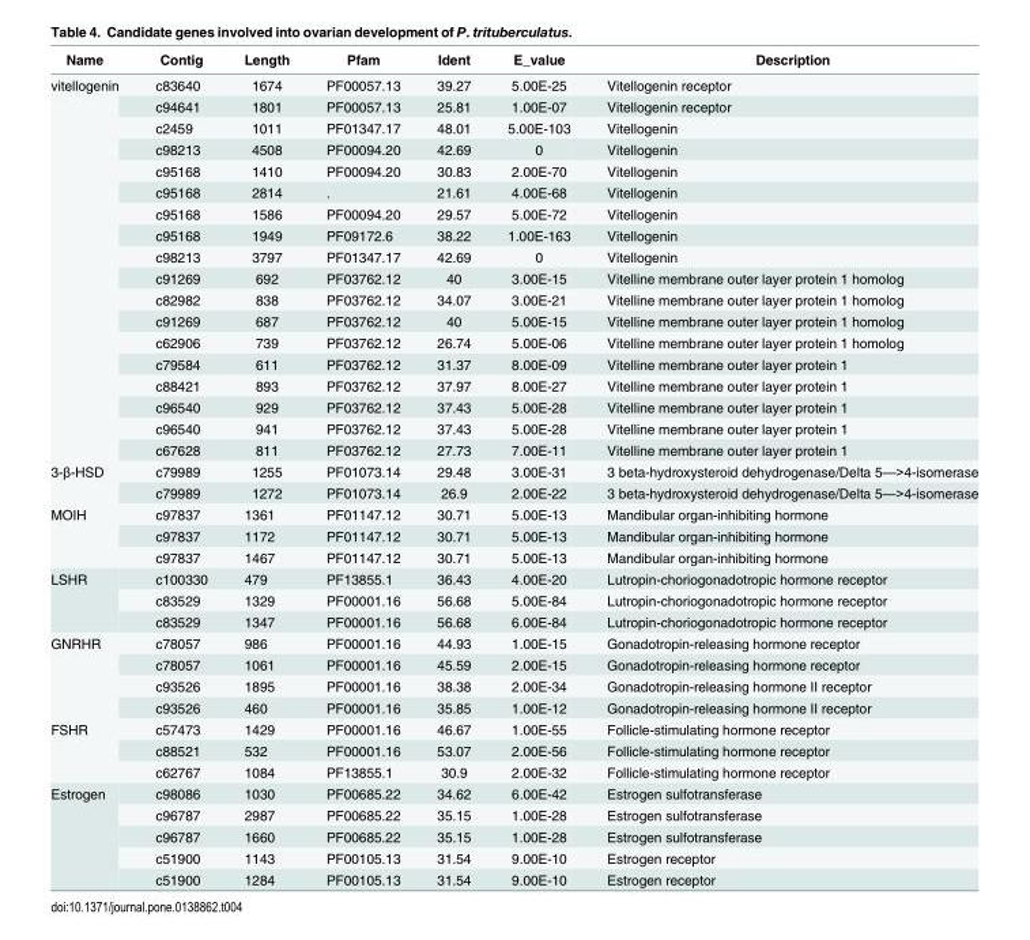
<table><thead><tr><td>Name</td><td>Contig</td><td>Length</td><td>Pfam</td><td>Ident</td><td>E_value</td><td>Description</td></tr></thead><tbody><tr><td rowspan="18">vitellogenin</td><td>c83640</td><td>1674</td><td>PF00057.13</td><td>39.27</td><td>5.00E-25</td><td>Vitellogenin receptor</td></tr><tr><td>c94641</td><td>1801</td><td>PF00057.13</td><td>25.81</td><td>1.00E-07</td><td>Vitellogenin receptor</td></tr><tr><td>c2459</td><td>1011</td><td>PF01347.17</td><td>48.01</td><td>5.00E-103</td><td>Vitellogenin</td></tr><tr><td>c98213</td><td>4508</td><td>PF00094.20</td><td>42.69</td><td>0</td><td>Vitellogenin</td></tr><tr><td>c95168</td><td>1410</td><td>PF00094.20</td><td>30.83</td><td>2.00E-70</td><td>Vitellogenin</td></tr><tr><td>c95168</td><td>2814</td><td>.</td><td>21.61</td><td>4.00E-68</td><td>Vitellogenin</td></tr><tr><td>c95168</td><td>1586</td><td>PF00094.20</td><td>29.57</td><td>5.00E-72</td><td>Vitellogenin</td></tr><tr><td>c95168</td><td>1949</td><td>PF09172.6</td><td>38.22</td><td>1.00E-163</td><td>Vitellogenin</td></tr><tr><td>c98213</td><td>3797</td><td>PF01347.17</td><td>42.69</td><td>0</td><td>Vitellogenin</td></tr><tr><td>c91269</td><td>692</td><td>PF03762.12</td><td>40</td><td>3.00E-15</td><td>Vitelline membrane outer layer protein 1 homolog</td></tr><tr><td>c82982</td><td>838</td><td>PF03762.12</td><td>34.07</td><td>3.00E-21</td><td>Vitelline membrane outer layer protein 1 homolog</td></tr><tr><td>c91269</td><td>687</td><td>PF03762.12</td><td>40</td><td>5.00E-15</td><td>Vitelline membrane outer layer protein 1 homolog</td></tr><tr><td>c62906</td><td>739</td><td>PF03762.12</td><td>26.74</td><td>5.00E-06</td><td>Vitelline membrane outer layer protein 1 homolog</td></tr><tr><td>c79584</td><td>611</td><td>PF03762.12</td><td>31.37</td><td>8.00E-09</td><td>Vitelline membrane outer layer protein 1</td></tr><tr><td>c88421</td><td>893</td><td>PF03762.12</td><td>37.97</td><td>8.00E-27</td><td>Vitelline membrane outer layer protein 1</td></tr><tr><td>c96540</td><td>929</td><td>PF03762.12</td><td>37.43</td><td>5.00E-28</td><td>Vitelline membrane outer layer protein 1</td></tr><tr><td>c96540</td><td>941</td><td>PF03762.12</td><td>37.43</td><td>5.00E-28</td><td>Vitelline membrane outer layer protein 1</td></tr><tr><td>c67628</td><td>811</td><td>PF03762.12</td><td>27.73</td><td>7.00E-11</td><td>Vitelline membrane outer layer protein 1</td></tr><tr><td rowspan="2">3-β-HSD</td><td>c79989</td><td>1255</td><td>PF01073.14</td><td>29.48</td><td>3.00E-31</td><td>3 beta-hydroxysteroid dehydrogenase/Delta 5—&gt;4-isomerase</td></tr><tr><td>c79989</td><td>1272</td><td>PF01073.14</td><td>26.9</td><td>2.00E-22</td><td>3 beta-hydroxysteroid dehydrogenase/Delta 5—&gt;4-isomerase</td></tr><tr><td rowspan="3">MOIH</td><td>c97837</td><td>1361</td><td>PF01147.12</td><td>30.71</td><td>5.00E-13</td><td>Mandibular organ-inhibiting hormone</td></tr><tr><td>c97837</td><td>1172</td><td>PF01147.12</td><td>30.71</td><td>5.00E-13</td><td>Mandibular organ-inhibiting hormone</td></tr><tr><td>c97837</td><td>1467</td><td>PF01147.12</td><td>30.71</td><td>5.00E-13</td><td>Mandibular organ-inhibiting hormone</td></tr><tr><td rowspan="3">LSHR</td><td>c100330</td><td>479</td><td>PF13855.1</td><td>36.43</td><td>4.00E-20</td><td>Lutropin-choriogonadotropic hormone receptor</td></tr><tr><td>c83529</td><td>1329</td><td>PF00001.16</td><td>56.68</td><td>5.00E-84</td><td>Lutropin-choriogonadotropic hormone receptor</td></tr><tr><td>c83529</td><td>1347</td><td>PF00001.16</td><td>56.68</td><td>6.00E-84</td><td>Lutropin-choriogonadotropic hormone receptor</td></tr><tr><td rowspan="4">GNRHR</td><td>c78057</td><td>986</td><td>PF00001.16</td><td>44.93</td><td>1.00E-15</td><td>Gonadotropin-releasing hormone receptor</td></tr><tr><td>c78057</td><td>1061</td><td>PF00001.16</td><td>45.59</td><td>2.00E-15</td><td>Gonadotropin-releasing hormone receptor</td></tr><tr><td>c93526</td><td>1895</td><td>PF00001.16</td><td>38.38</td><td>2.00E-34</td><td>Gonadotropin-releasing hormone II receptor</td></tr><tr><td>c93526</td><td>460</td><td>PF00001.16</td><td>35.85</td><td>1.00E-12</td><td>Gonadotropin-releasing hormone II receptor</td></tr><tr><td rowspan="3">FSHR</td><td>c57473</td><td>1429</td><td>PF00001.16</td><td>46.67</td><td>1.00E-55</td><td>Follicle-stimulating hormone receptor</td></tr><tr><td>c88521</td><td>532</td><td>PF00001.16</td><td>53.07</td><td>2.00E-56</td><td>Follicle-stimulating hormone receptor</td></tr><tr><td>c62767</td><td>1084</td><td>PF13855.1</td><td>30.9</td><td>2.00E-32</td><td>Follicle-stimulating hormone receptor</td></tr><tr><td rowspan="5">Estrogen</td><td>c98086</td><td>1030</td><td>PF00685.22</td><td>34.62</td><td>6.00E-42</td><td>Estrogen sulfotransferase</td></tr><tr><td>c96787</td><td>2987</td><td>PF00685.22</td><td>35.15</td><td>1.00E-28</td><td>Estrogen sulfotransferase</td></tr><tr><td>c96787</td><td>1660</td><td>PF00685.22</td><td>35.15</td><td>1.00E-28</td><td>Estrogen sulfotransferase</td></tr><tr><td>c51900</td><td>1143</td><td>PF00105.13</td><td>31.54</td><td>9.00E-10</td><td>Estrogen receptor</td></tr><tr><td>c51900</td><td>1284</td><td>PF00105.13</td><td>31.54</td><td>9.00E-10</td><td>Estrogen receptor</td></tr></tbody></table>